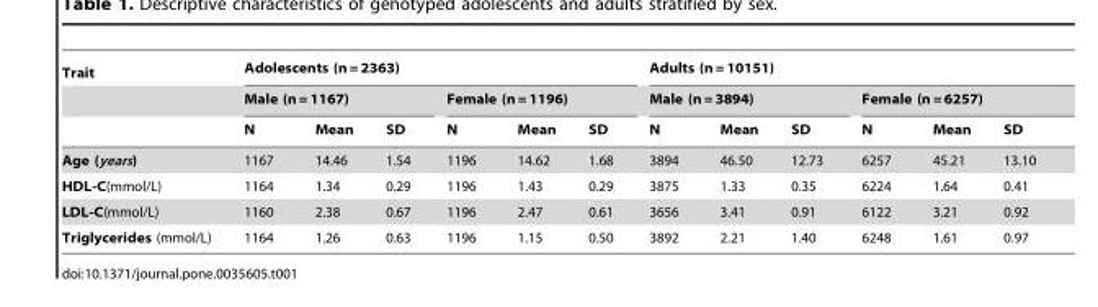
<table><thead><tr><td rowspan="3">Trait</td><td colspan="6">Adolescents (n = 2363)</td><td colspan="6">Adults (n = 10151)</td></tr><tr><td colspan="3">Male (n = 1167)</td><td colspan="3">Female (n = 1196)</td><td colspan="3">Male (n = 3894)</td><td colspan="3">Female (n = 6257)</td></tr><tr><td>N</td><td>Mean</td><td>SD</td><td>N</td><td>Mean</td><td>SD</td><td>N</td><td>Mean</td><td>SD</td><td>N</td><td>Mean</td><td>SD</td></tr></thead><tbody><tr><td>Age (years)</td><td>1167</td><td>14.46</td><td>1.54</td><td>1196</td><td>14.62</td><td>1.68</td><td>3894</td><td>46.50</td><td>12.73</td><td>6257</td><td>45.21</td><td>13.10</td></tr><tr><td>HDL-C(mmol/L)</td><td>1164</td><td>1.34</td><td>0.29</td><td>1196</td><td>1.43</td><td>0.29</td><td>3875</td><td>1.33</td><td>0.35</td><td>6224</td><td>1.64</td><td>0.41</td></tr><tr><td>LDL-C(mmol/L)</td><td>1160</td><td>2.38</td><td>0.67</td><td>1196</td><td>2.47</td><td>0.61</td><td>3656</td><td>3.41</td><td>0.91</td><td>6122</td><td>3.21</td><td>0.92</td></tr><tr><td>Triglycerides (mmol/L)</td><td>1164</td><td>1.26</td><td>0.63</td><td>1196</td><td>1.15</td><td>0.50</td><td>3892</td><td>2.21</td><td>1.40</td><td>6248</td><td>1.61</td><td>0.97</td></tr></tbody></table>